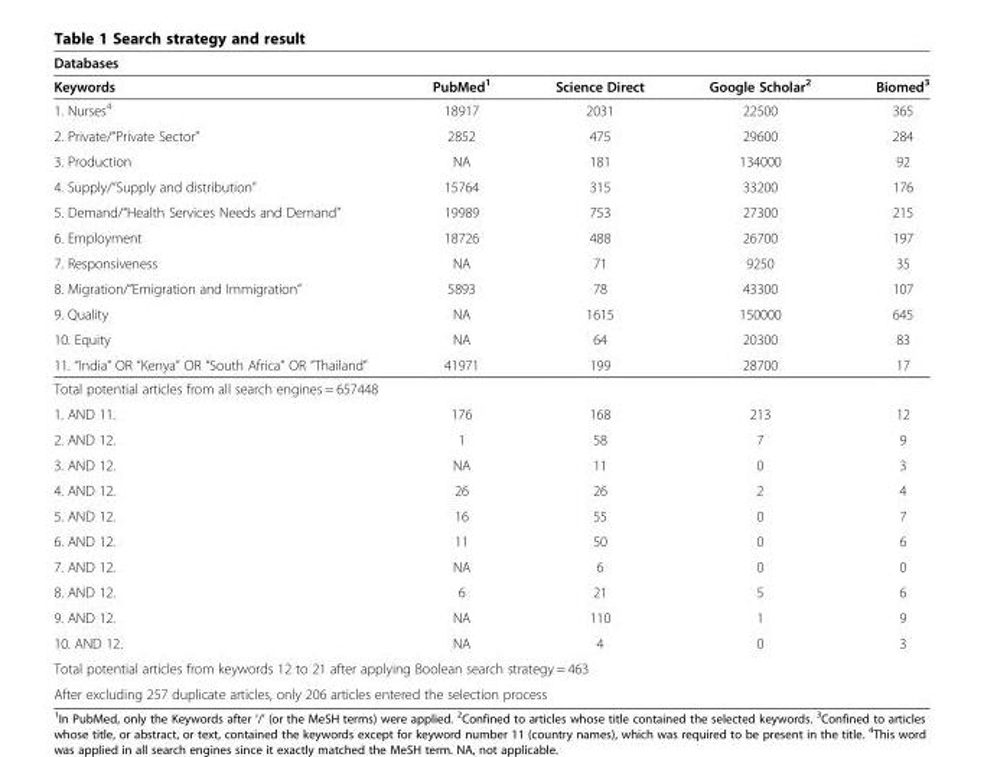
<table><thead><tr><td colspan="5">Databases</td></tr><tr><td>Keywords</td><td>PubMed<sup>1</sup></td><td>Science Direct</td><td>Google Scholar<sup>2</sup></td><td>Biomed<sup>3</sup></td></tr></thead><tbody><tr><td>1. Nurses<sup>4</sup></td><td>18917</td><td>2031</td><td>22500</td><td>365</td></tr><tr><td>2. Private/“Private Sector”</td><td>2852</td><td>475</td><td>29600</td><td>284</td></tr><tr><td>3. Production</td><td>NA</td><td>181</td><td>134000</td><td>92</td></tr><tr><td>4. Supply/“Supply and distribution”</td><td>15764</td><td>315</td><td>33200</td><td>176</td></tr><tr><td>5. Demand/“Health Services Needs and Demand”</td><td>19989</td><td>753</td><td>27300</td><td>215</td></tr><tr><td>6. Employment</td><td>18726</td><td>488</td><td>26700</td><td>197</td></tr><tr><td>7. Responsiveness</td><td>NA</td><td>71</td><td>9250</td><td>35</td></tr><tr><td>8. Migration/“Emigration and Immigration”</td><td>5893</td><td>78</td><td>43300</td><td>107</td></tr><tr><td>9. Quality</td><td>NA</td><td>1615</td><td>150000</td><td>645</td></tr><tr><td>10. Equity</td><td>NA</td><td>64</td><td>20300</td><td>83</td></tr><tr><td>11. “India” OR “Kenya” OR “South Africa” OR “Thailand”</td><td>41971</td><td>199</td><td>28700</td><td>17</td></tr><tr><td colspan="5">Total potential articles from all search engines = 657448</td></tr><tr><td>1. AND 11.</td><td>176</td><td>168</td><td>213</td><td>12</td></tr><tr><td>2. AND 12.</td><td>1</td><td>58</td><td>7</td><td>9</td></tr><tr><td>3. AND 12.</td><td>NA</td><td>11</td><td>0</td><td>3</td></tr><tr><td>4. AND 12.</td><td>26</td><td>26</td><td>2</td><td>4</td></tr><tr><td>5. AND 12.</td><td>16</td><td>55</td><td>0</td><td>7</td></tr><tr><td>6. AND 12.</td><td>11</td><td>50</td><td>0</td><td>6</td></tr><tr><td>7. AND 12.</td><td>NA</td><td>6</td><td>0</td><td>0</td></tr><tr><td>8. AND 12.</td><td>6</td><td>21</td><td>5</td><td>6</td></tr><tr><td>9. AND 12.</td><td>NA</td><td>110</td><td>1</td><td>9</td></tr><tr><td>10. AND 12.</td><td>NA</td><td>4</td><td>0</td><td>3</td></tr><tr><td colspan="5">Total potential articles from keywords 12 to 21 after applying Boolean search strategy = 463</td></tr><tr><td colspan="5">After excluding 257 duplicate articles, only 206 articles entered the selection process</td></tr></tbody></table>